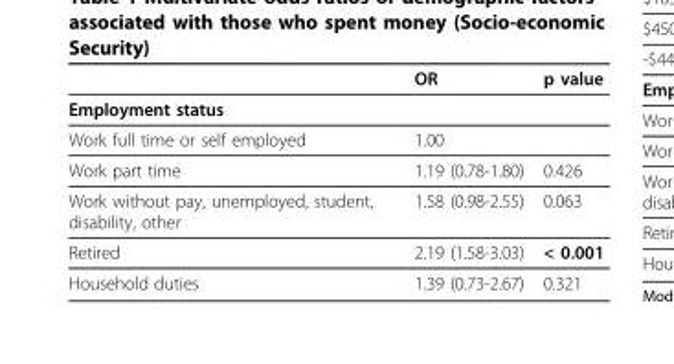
<table><thead><tr><td></td><td>OR</td><td>p value</td></tr></thead><tbody><tr><td colspan="3">Employment status</td></tr><tr><td>Work full time or self employed</td><td>1.00</td><td></td></tr><tr><td>Work part time</td><td>1.19 (0.78-1.80)</td><td>0.426</td></tr><tr><td>Work without pay, unemployed, student, disability, other</td><td>1.58 (0.98-2.55)</td><td>0.063</td></tr><tr><td>Retired</td><td>2.19 (1.58-3.03)</td><td>&lt; 0.001</td></tr><tr><td>Household duties</td><td>1.39 (0.73-2.67)</td><td>0.321</td></tr></tbody></table>